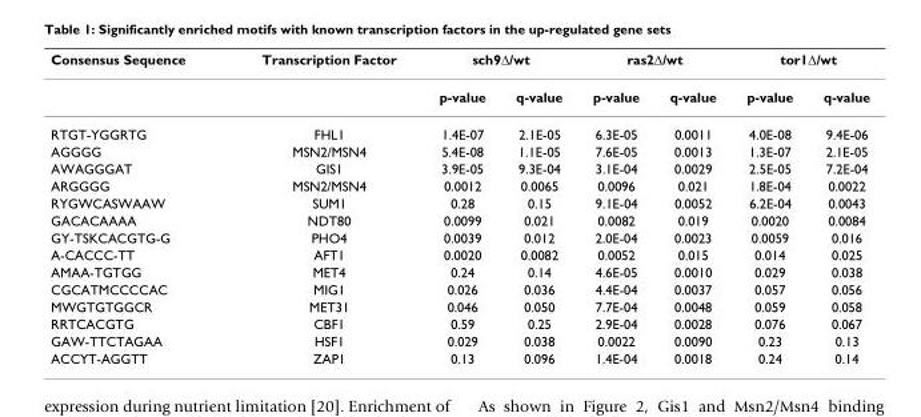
<table><thead><tr><td rowspan="2">Consensus Sequence</td><td rowspan="2">Transcription Factor</td><td colspan="2">sch9∆/wt</td><td colspan="2">ras2∆/wt</td><td colspan="2">tor1∆/wt</td></tr><tr><td>p-value</td><td>q-value</td><td>p-value</td><td>q-value</td><td>p-value</td><td>q-value</td></tr></thead><tbody><tr><td>RTGT-YGGRTG</td><td>FHL1</td><td>1.4E-07</td><td>2.1E-05</td><td>6.3E-05</td><td>0.0011</td><td>4.0E-08</td><td>9.4E-06</td></tr><tr><td>AGGGG</td><td>MSN2/MSN4</td><td>5.4E-08</td><td>1.1E-05</td><td>7.6E-05</td><td>0.0013</td><td>1.3E-07</td><td>2.1E-05</td></tr><tr><td>AWAGGGAT</td><td>GIS1</td><td>3.9E-05</td><td>9.3E-04</td><td>3.1E-04</td><td>0.0029</td><td>2.5E-05</td><td>7.2E-04</td></tr><tr><td>ARGGGG</td><td>MSN2/MSN4</td><td>0.0012</td><td>0.0065</td><td>0.0096</td><td>0.021</td><td>1.8E-04</td><td>0.0022</td></tr><tr><td>RYGWCASWAAW</td><td>SUM1</td><td>0.28</td><td>0.15</td><td>9.1E-04</td><td>0.0052</td><td>6.2E-04</td><td>0.0043</td></tr><tr><td>GACACAAAA</td><td>NDT80</td><td>0.0099</td><td>0.021</td><td>0.0082</td><td>0.019</td><td>0.0020</td><td>0.0084</td></tr><tr><td>GY-TSKCACGTG-G</td><td>PHO4</td><td>0.0039</td><td>0.012</td><td>2.0E-04</td><td>0.0023</td><td>0.0059</td><td>0.016</td></tr><tr><td>A-CACCC-TT</td><td>AFT1</td><td>0.0020</td><td>0.0082</td><td>0.0052</td><td>0.015</td><td>0.014</td><td>0.025</td></tr><tr><td>AMAA-TGTGG</td><td>MET4</td><td>0.24</td><td>0.14</td><td>4.6E-05</td><td>0.0010</td><td>0.029</td><td>0.038</td></tr><tr><td>CGCATMCCCCAC</td><td>MIG1</td><td>0.026</td><td>0.036</td><td>4.4E-04</td><td>0.0037</td><td>0.057</td><td>0.056</td></tr><tr><td>MWGTGTGGCR</td><td>MET31</td><td>0.046</td><td>0.050</td><td>7.7E-04</td><td>0.0048</td><td>0.059</td><td>0.058</td></tr><tr><td>RRTCACGTG</td><td>CBF1</td><td>0.59</td><td>0.25</td><td>2.9E-04</td><td>0.0028</td><td>0.076</td><td>0.067</td></tr><tr><td>GAW-TTCTAGAA</td><td>HSF1</td><td>0.029</td><td>0.038</td><td>0.0022</td><td>0.0090</td><td>0.23</td><td>0.13</td></tr><tr><td>ACCYT-AGGTT</td><td>ZAP1</td><td>0.13</td><td>0.096</td><td>1.4E-04</td><td>0.0018</td><td>0.24</td><td>0.14</td></tr></tbody></table>